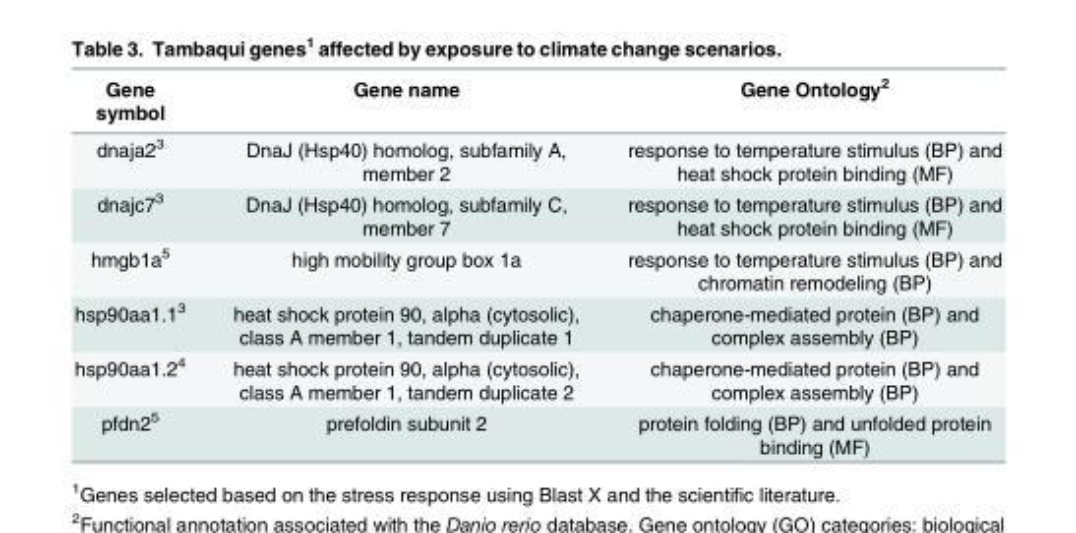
<table><thead><tr><td>Gene symbol</td><td>Gene name</td><td>Gene Ontology<sup>2</sup></td></tr></thead><tbody><tr><td>dnaja2<sup>3</sup></td><td>DnaJ (Hsp40) homolog, subfamily A, member 2</td><td>response to temperature stimulus (BP) and heat shock protein binding (MF)</td></tr><tr><td>dnajc7<sup>3</sup></td><td>DnaJ (Hsp40) homolog, subfamily C, member 7</td><td>response to temperature stimulus (BP) and heat shock protein binding (MF)</td></tr><tr><td>hmgb1a<sup>5</sup></td><td>high mobility group box 1a</td><td>response to temperature stimulus (BP) and chromatin remodeling (BP)</td></tr><tr><td>hsp90aa1.1<sup>3</sup></td><td>heat shock protein 90, alpha (cytosolic), class A member 1, tandem duplicate 1</td><td>chaperone-mediated protein (BP) and complex assembly (BP)</td></tr><tr><td>hsp90aa1.2<sup>4</sup></td><td>heat shock protein 90, alpha (cytosolic), class A member 1, tandem duplicate 2</td><td>chaperone-mediated protein (BP) and complex assembly (BP)</td></tr><tr><td>pfdn2<sup>5</sup></td><td>prefoldin subunit 2</td><td>protein folding (BP) and unfolded protein binding (MF)</td></tr></tbody></table>